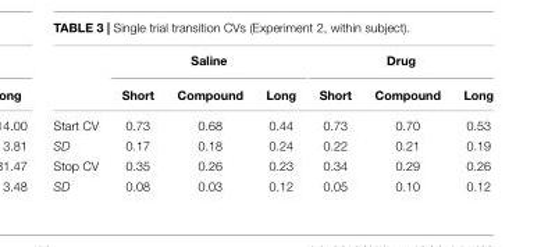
<table><thead><tr><td rowspan="2"></td><td colspan="3">Saline</td><td colspan="3">Drug</td></tr><tr><td>Short</td><td>Compound</td><td>Long</td><td>Short</td><td>Compound</td><td>Long</td></tr></thead><tbody><tr><td>Start CV</td><td>0.73</td><td>0.68</td><td>0.44</td><td>0.73</td><td>0.70</td><td>0.53</td></tr><tr><td>SD</td><td>0.17</td><td>0.18</td><td>0.24</td><td>0.22</td><td>0.21</td><td>0.19</td></tr><tr><td>Stop CV</td><td>0.35</td><td>0.26</td><td>0.23</td><td>0.34</td><td>0.29</td><td>0.26</td></tr><tr><td>SD</td><td>0.08</td><td>0.03</td><td>0.12</td><td>0.05</td><td>0.10</td><td>0.12</td></tr></tbody></table>